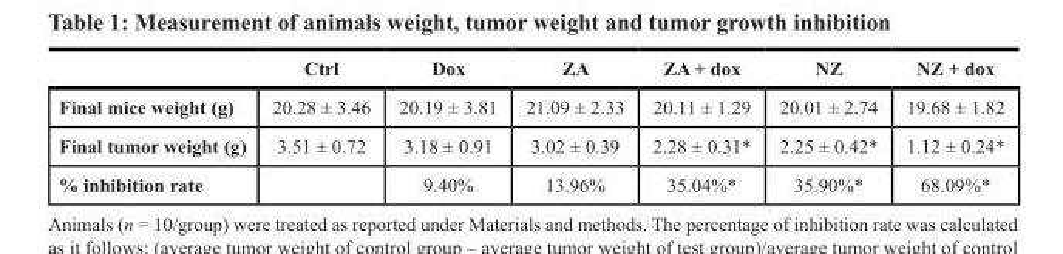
<table><thead><tr><td></td><td>Ctrl</td><td>Dox</td><td>ZA</td><td>ZA + dox</td><td>NZ</td><td>NZ + dox</td></tr></thead><tbody><tr><td>Final mice weight (g)</td><td>20.28 ± 3.46</td><td>20.19 ± 3.81</td><td>21.09 ± 2.33</td><td>20.11 ± 1.29</td><td>20.01 ± 2.74</td><td>19.68 ± 1.82</td></tr><tr><td>Final tumor weight (g)</td><td>3.51 ± 0.72</td><td>3.18 ± 0.91</td><td>3.02 ± 0.39</td><td>2.28 ± 0.31*</td><td>2.25 ± 0.42*</td><td>1.12 ± 0.24*</td></tr><tr><td>% inhibition rate</td><td></td><td>9.40%</td><td>13.96%</td><td>35.04%*</td><td>35.90%*</td><td>68.09%*</td></tr></tbody></table>